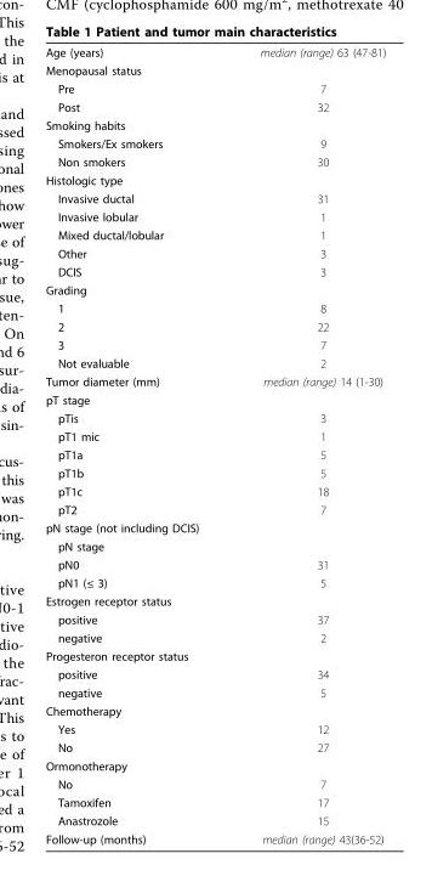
<table><tbody><tr><td>Age (years)</td><td>median (range) 63 (47-81)</td></tr><tr><td colspan="2">Menopausal status</td></tr><tr><td>Pre</td><td>7</td></tr><tr><td>Post</td><td>32</td></tr><tr><td colspan="2">Smoking habits</td></tr><tr><td>Smokers/Ex smokers</td><td>9</td></tr><tr><td>Non smokers</td><td>30</td></tr><tr><td colspan="2">Histologic type</td></tr><tr><td>Invasive ductal</td><td>31</td></tr><tr><td>Invasive lobular</td><td>1</td></tr><tr><td>Mixed ductal/lobular</td><td>1</td></tr><tr><td>Other</td><td>3</td></tr><tr><td>DCIS</td><td>3</td></tr><tr><td colspan="2">Grading</td></tr><tr><td>1</td><td>8</td></tr><tr><td>2</td><td>22</td></tr><tr><td>3</td><td>7</td></tr><tr><td>Not evaluable</td><td>2</td></tr><tr><td>Tumor diameter (mm)</td><td>median (range) 14 (1-30)</td></tr><tr><td colspan="2">pT stage</td></tr><tr><td>pTis</td><td>3</td></tr><tr><td>pT1 mic</td><td>1</td></tr><tr><td>pT1a</td><td>5</td></tr><tr><td>pT1b</td><td>5</td></tr><tr><td>pT1c</td><td>18</td></tr><tr><td>pT2</td><td>7</td></tr><tr><td colspan="2">pN stage (not including DCIS)</td></tr><tr><td colspan="2">pN stage</td></tr><tr><td>pN0</td><td>31</td></tr><tr><td>pN1 (≤ 3)</td><td>5</td></tr><tr><td colspan="2">Estrogen receptor status</td></tr><tr><td>positive</td><td>37</td></tr><tr><td>negative</td><td>2</td></tr><tr><td colspan="2">Progesteron receptor status</td></tr><tr><td>positive</td><td>34</td></tr><tr><td>negative</td><td>5</td></tr><tr><td colspan="2">Chemotherapy</td></tr><tr><td>Yes</td><td>12</td></tr><tr><td>No</td><td>27</td></tr><tr><td colspan="2">Ormonotherapy</td></tr><tr><td>No</td><td>7</td></tr><tr><td>Tamoxifen</td><td>17</td></tr><tr><td>Anastrozole</td><td>15</td></tr><tr><td>Follow-up (months)</td><td>median (range) 43(36-52)</td></tr></tbody></table>